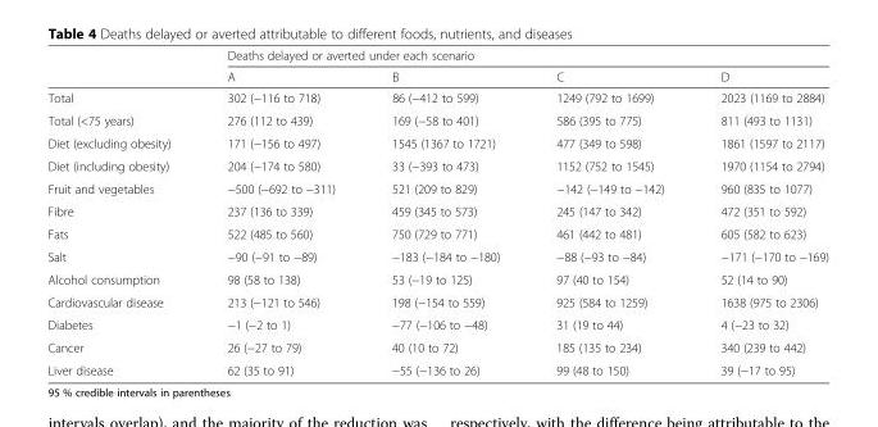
<table><thead><tr><td rowspan="2"></td><td colspan="4">Deaths delayed or averted under each scenario</td></tr><tr><td>A</td><td>B</td><td>C</td><td>D</td></tr></thead><tbody><tr><td>Total</td><td>302 (−116 to 718)</td><td>86 (−412 to 599)</td><td>1249 (792 to 1699)</td><td>2023 (1169 to 2884)</td></tr><tr><td>Total (&lt;75 years)</td><td>276 (112 to 439)</td><td>169 (−58 to 401)</td><td>586 (395 to 775)</td><td>811 (493 to 1131)</td></tr><tr><td>Diet (excluding obesity)</td><td>171 (−156 to 497)</td><td>1545 (1367 to 1721)</td><td>477 (349 to 598)</td><td>1861 (1597 to 2117)</td></tr><tr><td>Diet (including obesity)</td><td>204 (−174 to 580)</td><td>33 (−393 to 473)</td><td>1152 (752 to 1545)</td><td>1970 (1154 to 2794)</td></tr><tr><td>Fruit and vegetables</td><td>−500 (−692 to −311)</td><td>521 (209 to 829)</td><td>−142 (−149 to −142)</td><td>960 (835 to 1077)</td></tr><tr><td>Fibre</td><td>237 (136 to 339)</td><td>459 (345 to 573)</td><td>245 (147 to 342)</td><td>472 (351 to 592)</td></tr><tr><td>Fats</td><td>522 (485 to 560)</td><td>750 (729 to 771)</td><td>461 (442 to 481)</td><td>605 (582 to 623)</td></tr><tr><td>Salt</td><td>−90 (−91 to −89)</td><td>−183 (−184 to −180)</td><td>−88 (−93 to −84)</td><td>−171 (−170 to −169)</td></tr><tr><td>Alcohol consumption</td><td>98 (58 to 138)</td><td>53 (−19 to 125)</td><td>97 (40 to 154)</td><td>52 (14 to 90)</td></tr><tr><td>Cardiovascular disease</td><td>213 (−121 to 546)</td><td>198 (−154 to 559)</td><td>925 (584 to 1259)</td><td>1638 (975 to 2306)</td></tr><tr><td>Diabetes</td><td>−1 (−2 to 1)</td><td>−77 (−106 to −48)</td><td>31 (19 to 44)</td><td>4 (−23 to 32)</td></tr><tr><td>Cancer</td><td>26 (−27 to 79)</td><td>40 (10 to 72)</td><td>185 (135 to 234)</td><td>340 (239 to 442)</td></tr><tr><td>Liver disease</td><td>62 (35 to 91)</td><td>−55 (−136 to 26)</td><td>99 (48 to 150)</td><td>39 (−17 to 95)</td></tr></tbody></table>